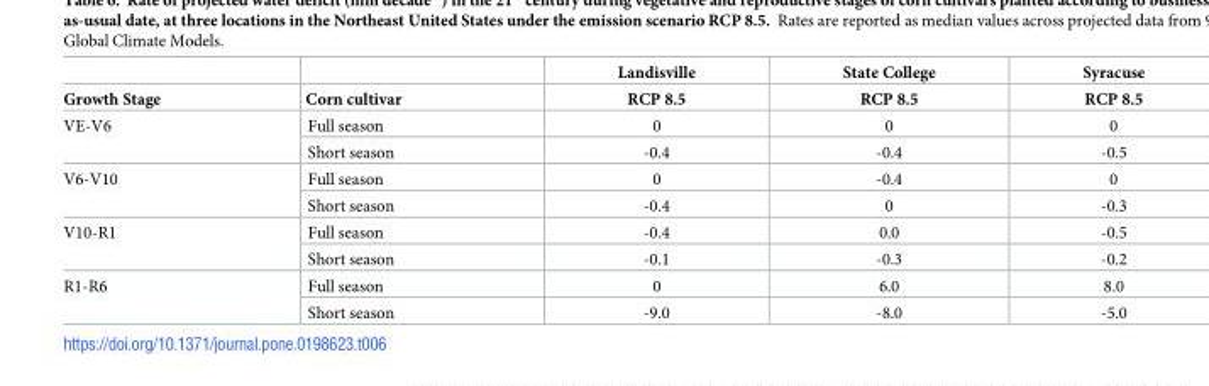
<table><thead><tr><td rowspan="2">Growth Stage</td><td rowspan="2">Corn cultivar</td><td rowspan="2">Landisville RCP 8.5</td><td rowspan="2">State College RCP 8.5</td><td rowspan="2">Syracuse RCP 8.5</td></tr><tr></tr></thead><tbody><tr><td rowspan="2">VE-V6</td><td>Full season</td><td>0</td><td>0</td><td>0</td></tr><tr><td>Short season</td><td>-0.4</td><td>-0.4</td><td>-0.5</td></tr><tr><td rowspan="2">V6-V10</td><td>Full season</td><td>0</td><td>-0.4</td><td>0</td></tr><tr><td>Short season</td><td>-0.4</td><td>0</td><td>-0.3</td></tr><tr><td rowspan="2">V10-R1</td><td>Full season</td><td>-0.4</td><td>0.0</td><td>-0.5</td></tr><tr><td>Short season</td><td>-0.1</td><td>-0.3</td><td>-0.2</td></tr><tr><td rowspan="2">R1-R6</td><td>Full season</td><td>0</td><td>6.0</td><td>8.0</td></tr><tr><td>Short season</td><td>-9.0</td><td>-8.0</td><td>-5.0</td></tr></tbody></table>